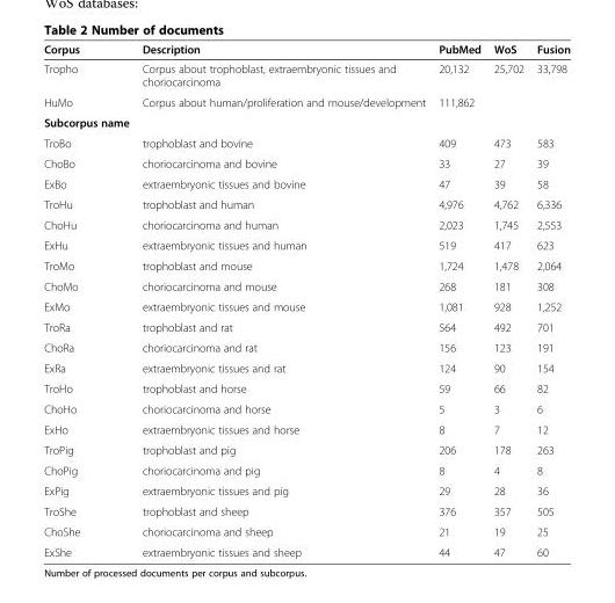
<table><thead><tr><td>Corpus</td><td>Description</td><td>PubMed</td><td>WoS</td><td>Fusion</td></tr></thead><tbody><tr><td>Tropho</td><td>Corpus about trophoblast, extraembryonic tissues and choriocarcinoma</td><td>20,132</td><td>25,702</td><td>33,798</td></tr><tr><td>HuMo</td><td>Corpus about human/proliferation and mouse/development</td><td>111,862</td><td></td><td></td></tr><tr><td colspan="5">Subcorpus name</td></tr><tr><td>TroBo</td><td>trophoblast and bovine</td><td>409</td><td>473</td><td>583</td></tr><tr><td>ChoBo</td><td>choriocarcinoma and bovine</td><td>33</td><td>27</td><td>39</td></tr><tr><td>ExBo</td><td>extraembryonic tissues and bovine</td><td>47</td><td>39</td><td>58</td></tr><tr><td>TroHu</td><td>trophoblast and human</td><td>4,976</td><td>4,762</td><td>6,336</td></tr><tr><td>ChoHu</td><td>choriocarcinoma and human</td><td>2,023</td><td>1,745</td><td>2,553</td></tr><tr><td>ExHu</td><td>extraembryonic tissues and human</td><td>519</td><td>417</td><td>623</td></tr><tr><td>TroMo</td><td>trophoblast and mouse</td><td>1,724</td><td>1,478</td><td>2,064</td></tr><tr><td>ChoMo</td><td>choriocarcinoma and mouse</td><td>268</td><td>181</td><td>308</td></tr><tr><td>ExMo</td><td>extraembryonic tissues and mouse</td><td>1,081</td><td>928</td><td>1,252</td></tr><tr><td>TroRa</td><td>trophoblast and rat</td><td>564</td><td>492</td><td>701</td></tr><tr><td>ChoRa</td><td>choriocarcinoma and rat</td><td>156</td><td>123</td><td>191</td></tr><tr><td>ExRa</td><td>extraembryonic tissues and rat</td><td>124</td><td>90</td><td>154</td></tr><tr><td>TroHo</td><td>trophoblast and horse</td><td>59</td><td>66</td><td>82</td></tr><tr><td>ChoHo</td><td>choriocarcinoma and horse</td><td>5</td><td>3</td><td>6</td></tr><tr><td>ExHo</td><td>extraembryonic tissues and horse</td><td>8</td><td>7</td><td>12</td></tr><tr><td>TroPig</td><td>trophoblast and pig</td><td>206</td><td>178</td><td>263</td></tr><tr><td>ChoPig</td><td>choriocarcinoma and pig</td><td>8</td><td>4</td><td>8</td></tr><tr><td>ExPig</td><td>extraembryonic tissues and pig</td><td>29</td><td>28</td><td>36</td></tr><tr><td>TroShe</td><td>trophoblast and sheep</td><td>376</td><td>357</td><td>505</td></tr><tr><td>ChoShe</td><td>choriocarcinoma and sheep</td><td>21</td><td>19</td><td>25</td></tr><tr><td>ExShe</td><td>extraembryonic tissues and sheep</td><td>44</td><td>47</td><td>60</td></tr></tbody></table>